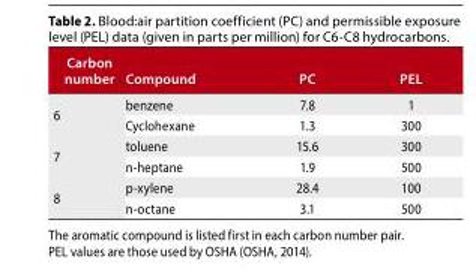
<table><thead><tr><td>Carbon number</td><td>Compound</td><td>PC</td><td>PEL</td></tr></thead><tbody><tr><td rowspan="2">6</td><td>benzene</td><td>7.8</td><td>1</td></tr><tr><td>Cyclohexane</td><td>1.3</td><td>300</td></tr><tr><td rowspan="2">7</td><td>toluene</td><td>15.6</td><td>300</td></tr><tr><td>n-heptane</td><td>1.9</td><td>500</td></tr><tr><td rowspan="2">8</td><td>p-xylene</td><td>28.4</td><td>100</td></tr><tr><td>n-octane</td><td>3.1</td><td>500</td></tr></tbody></table>